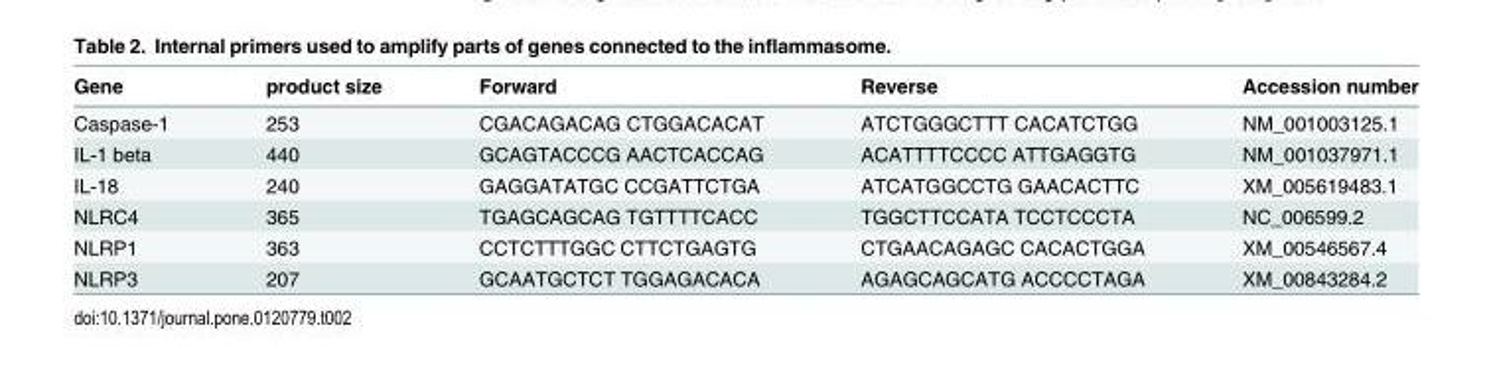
<table><thead><tr><td>Gene</td><td>product size</td><td>Forward</td><td>Reverse</td><td>Accession number</td></tr></thead><tbody><tr><td>Caspase-1</td><td>253</td><td>CGACAGACAG CTGGACACAT</td><td>ATCTGGGCTTT CACATCTGG</td><td>NM_001003125.1</td></tr><tr><td>IL-1 beta</td><td>440</td><td>GCAGTACCCG AACTCACCAG</td><td>ACATTTTCCCC ATTGAGGTG</td><td>NM_001037971.1</td></tr><tr><td>IL-18</td><td>240</td><td>GAGGATATGC CCGATTCTGA</td><td>ATCATGGCCTG GAACACTTC</td><td>XM_005619483.1</td></tr><tr><td>NLRC4</td><td>365</td><td>TGAGCAGCAG TGTTTTCACC</td><td>TGGCTTCCATA TCCTCCCTA</td><td>NC_006599.2</td></tr><tr><td>NLRP1</td><td>363</td><td>CCTCTTTGGC CTTCTGAGTG</td><td>CTGAACAGAGC CACACTGGA</td><td>XM_00546567.4</td></tr><tr><td>NLRP3</td><td>207</td><td>GCAATGCTCT TGGAGACACA</td><td>AGAGCAGCATG ACCCCTAGA</td><td>XM_00843284.2</td></tr></tbody></table>